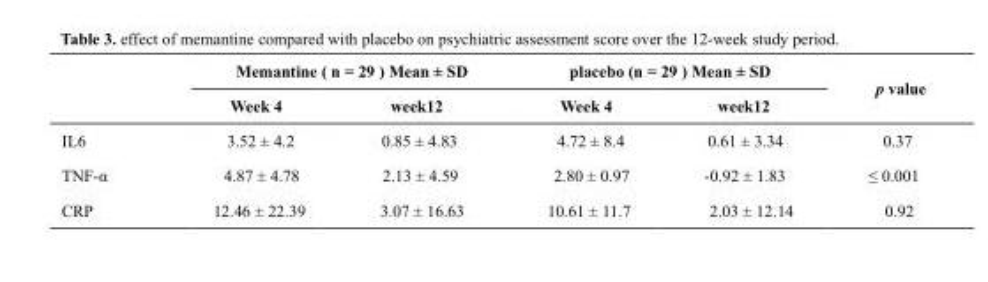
<table><thead><tr><td rowspan="2"></td><td colspan="2">Memantine ( n = 29 ) Mean ± SD</td><td colspan="2">placebo (n = 29 ) Mean ± SD</td><td rowspan="2">p value</td></tr><tr><td>Week 4</td><td>week12</td><td>Week 4</td><td>week12</td></tr></thead><tbody><tr><td>IL6</td><td>3.52 ± 4.2</td><td>0.85 ± 4.83</td><td>4.72 ± 8.4</td><td>0.61 ± 3.34</td><td>0.37</td></tr><tr><td>TNF-α</td><td>4.87 ± 4.78</td><td>2.13 ± 4.59</td><td>2.80 ± 0.97</td><td>-0.92 ± 1.83</td><td>≤ 0.001</td></tr><tr><td>CRP</td><td>12.46 ± 22.39</td><td>3.07 ± 16.63</td><td>10.61 ± 11.7</td><td>2.03 ± 12.14</td><td>0.92</td></tr></tbody></table>